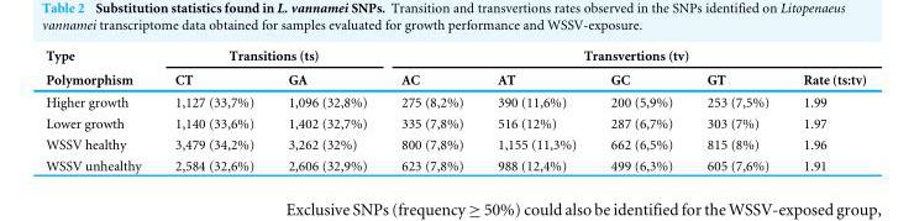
<table><thead><tr><td rowspan="2">Type Polymorphism</td><td colspan="2">Transitions (ts)</td><td colspan="5">Transvertions (tv)</td></tr><tr><td>CT</td><td>GA</td><td>AC</td><td>AT</td><td>GC</td><td>GT</td><td>Rate (ts:tv)</td></tr></thead><tbody><tr><td>Higher growth</td><td>1,127 (33,7%)</td><td>1,096 (32,8%)</td><td>275 (8,2%)</td><td>390 (11,6%)</td><td>200 (5,9%)</td><td>253 (7,5%)</td><td>1.99</td></tr><tr><td>Lower growth</td><td>1,140 (33,6%)</td><td>1,402 (32,7%)</td><td>335 (7,8%)</td><td>516 (12%)</td><td>287 (6,7%)</td><td>303 (7%)</td><td>1.97</td></tr><tr><td>WSSV healthy</td><td>3,479 (34,2%)</td><td>3,262 (32%)</td><td>800 (7,8%)</td><td>1,155 (11,3%)</td><td>662 (6,5%)</td><td>815 (8%)</td><td>1.96</td></tr><tr><td>WSSV unhealthy</td><td>2,584 (32,6%)</td><td>2,606 (32,9%)</td><td>623 (7,8%)</td><td>988 (12,4%)</td><td>499 (6,3%)</td><td>605 (7,6%)</td><td>1.91</td></tr></tbody></table>